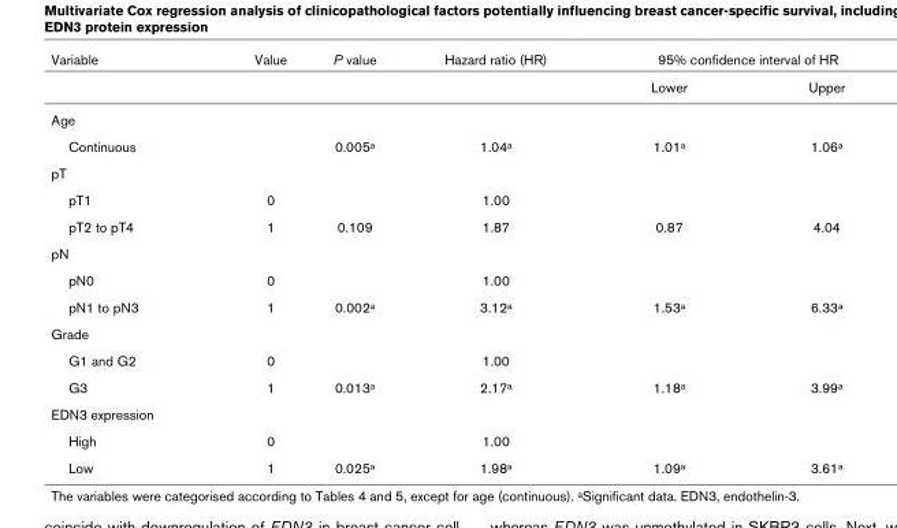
<table><thead><tr><td rowspan="2">Variable</td><td rowspan="2">Value</td><td rowspan="2">P value</td><td rowspan="2">Hazard ratio (HR)</td><td colspan="2">95% confidence interval of HR</td></tr><tr><td>Lower</td><td>Upper</td></tr></thead><tbody><tr><td colspan="6">Age</td></tr><tr><td>Continuous</td><td></td><td>0.005<sup>a</sup></td><td>1.04<sup>a</sup></td><td>1.01<sup>a</sup></td><td>1.06<sup>a</sup></td></tr><tr><td colspan="6">pT</td></tr><tr><td>pT1</td><td>0</td><td></td><td>1.00</td><td></td><td></td></tr><tr><td>pT2 to pT4</td><td>1</td><td>0.109</td><td>1.87</td><td>0.87</td><td>4.04</td></tr><tr><td colspan="6">pN</td></tr><tr><td>pN0</td><td>0</td><td></td><td>1.00</td><td></td><td></td></tr><tr><td>pN1 to pN3</td><td>1</td><td>0.002<sup>a</sup></td><td>3.12<sup>a</sup></td><td>1.53<sup>a</sup></td><td>6.33<sup>a</sup></td></tr><tr><td colspan="6">Grade</td></tr><tr><td>G1 and G2</td><td>0</td><td></td><td>1.00</td><td></td><td></td></tr><tr><td>G3</td><td>1</td><td>0.013<sup>a</sup></td><td>2.17<sup>a</sup></td><td>1.18<sup>a</sup></td><td>3.99<sup>a</sup></td></tr><tr><td colspan="6">EDN3 expression</td></tr><tr><td>High</td><td>0</td><td></td><td>1.00</td><td></td><td></td></tr><tr><td>Low</td><td>1</td><td>0.025<sup>a</sup></td><td>1.98<sup>a</sup></td><td>1.09<sup>a</sup></td><td>3.61<sup>a</sup></td></tr></tbody></table>